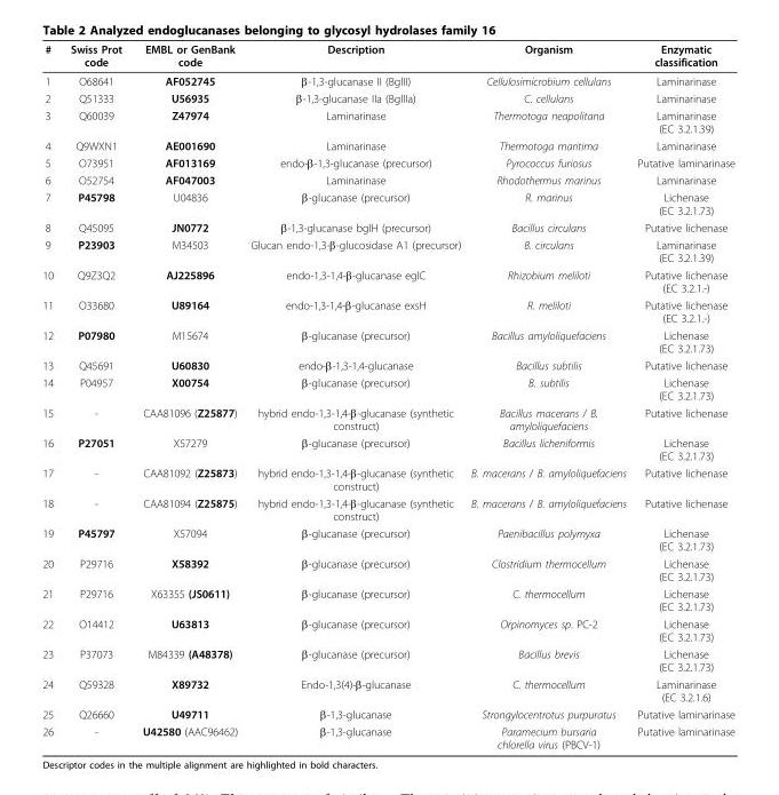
<table><thead><tr><td>#</td><td>Swiss Prot code</td><td>EMBL or GenBank code</td><td>Description</td><td>Organism</td><td>Enzymatic classification</td></tr></thead><tbody><tr><td>1</td><td>O68641</td><td>AF052745</td><td>β-1,3-glucanase II (BglII)</td><td>Cellulosimicrobium cellulans</td><td>Laminarinase</td></tr><tr><td>2</td><td>Q51333</td><td>U56935</td><td>β-1,3-glucanase IIa (BglIIa)</td><td>C. cellulans</td><td>Laminarinase</td></tr><tr><td>3</td><td>Q60039</td><td>Z47974</td><td>Laminarinase</td><td>Thermotoga neapolitana</td><td>Laminarinase (EC 3.2.1.39)</td></tr><tr><td>4</td><td>Q9WXN1</td><td>AE001690</td><td>Laminarinase</td><td>Thermotoga maritima</td><td>Laminarinase</td></tr><tr><td>5</td><td>O73951</td><td>AF013169</td><td>endo-β-1,3-glucanase (precursor)</td><td>Pyrococcus furiosus</td><td>Putative laminarinase</td></tr><tr><td>6</td><td>O52754</td><td>AF047003</td><td>Laminarinase</td><td>Rhodothermus marinus</td><td>Laminarinase</td></tr><tr><td>7</td><td>P45798</td><td>U04836</td><td>β-glucanase (precursor)</td><td>R. marinus</td><td>Lichenase (EC 3.2.1.73)</td></tr><tr><td>8</td><td>Q45095</td><td>JN0772</td><td>β-1,3-glucanase bglH (precursor)</td><td>Bacillus circulans</td><td>Putative lichenase</td></tr><tr><td>9</td><td>P23903</td><td>M34503</td><td>Glucan endo-1,3-β-glucosidase A1 (precursor)</td><td>B. circulans</td><td>Laminarinase (EC 3.2.1.39)</td></tr><tr><td>10</td><td>Q9Z3Q2</td><td>AJ225896</td><td>endo-1,3-1,4-β-glucanase eglC</td><td>Rhizobium meliloti</td><td>Putative lichenase (EC 3.2.1.-)</td></tr><tr><td>11</td><td>O33680</td><td>U89164</td><td>endo-1,3-1,4-β-glucanase exsH</td><td>R. meliloti</td><td>Putative lichenase (EC 3.2.1.-)</td></tr><tr><td>12</td><td>P07980</td><td>M15674</td><td>β-glucanase (precursor)</td><td>Bacillus amyloliquefaciens</td><td>Lichenase (EC 3.2.1.73)</td></tr><tr><td>13</td><td>Q45691</td><td>U60830</td><td>endo-β-1,3-1,4-glucanase</td><td>Bacillus subtilis</td><td>Putative lichenase</td></tr><tr><td>14</td><td>P04957</td><td>X00754</td><td>β-glucanase (precursor)</td><td>B. subtilis</td><td>Lichenase (EC 3.2.1.73)</td></tr><tr><td>15</td><td>-</td><td>CAA81096 (Z25877)</td><td>hybrid endo-1,3-1,4-β-glucanase (synthetic construct)</td><td>Bacillus macerans / B. amyloliquefaciens</td><td>Putative lichenase</td></tr><tr><td>16</td><td>P27051</td><td>X57279</td><td>β-glucanase (precursor)</td><td>Bacillus licheniformis</td><td>Lichenase (EC 3.2.1.73)</td></tr><tr><td>17</td><td>-</td><td>CAA81092 (Z25873)</td><td>hybrid endo-1,3-1,4-β-glucanase (synthetic construct)</td><td>B. macerans / B. amyloliquefaciens</td><td>Putative lichenase</td></tr><tr><td>18</td><td>-</td><td>CAA81094 (Z25875)</td><td>hybrid endo-1,3-1,4-β-glucanase (synthetic construct)</td><td>B. macerans / B. amyloliquefaciens</td><td>Putative lichenase</td></tr><tr><td>19</td><td>P45797</td><td>X57094</td><td>β-glucanase (precursor)</td><td>Paenibacillus polymyxa</td><td>Lichenase (EC 3.2.1.73)</td></tr><tr><td>20</td><td>P29716</td><td>X58392</td><td>β-glucanase (precursor)</td><td>Clostridium thermocellum</td><td>Lichenase (EC 3.2.1.73)</td></tr><tr><td>21</td><td>P29716</td><td>X63355 (JS0611)</td><td>β-glucanase (precursor)</td><td>C. thermocellum</td><td>Lichenase (EC 3.2.1.73)</td></tr><tr><td>22</td><td>O14412</td><td>U63813</td><td>β-glucanase (precursor)</td><td>Orpinomyces sp. PC-2</td><td>Lichenase (EC 3.2.1.73)</td></tr><tr><td>23</td><td>P37073</td><td>M84339 (A48378)</td><td>β-glucanase (precursor)</td><td>Bacillus brevis</td><td>Lichenase (EC 3.2.1.73)</td></tr><tr><td>24</td><td>Q59328</td><td>X89732</td><td>Endo-1,3(4)-β-glucanase</td><td>C. thermocellum</td><td>Laminarinase (EC 3.2.1.6)</td></tr><tr><td>25</td><td>Q26660</td><td>U49711</td><td>β-1,3-glucanase</td><td>Strongylocentrotus purpuratus</td><td>Putative laminarinase</td></tr><tr><td>26</td><td>-</td><td>U42580 (AAC96462)</td><td>β-1,3-glucanase</td><td>Paramecium bursaria chlorella virus (PBCV-1)</td><td>Putative laminarinase</td></tr></tbody></table>